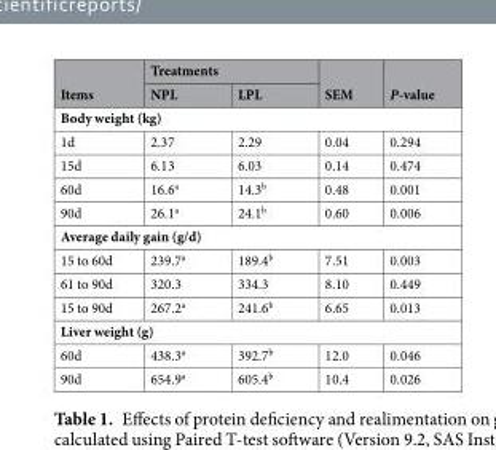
<table><thead><tr><td rowspan="2">Items</td><td colspan="2">Treatments</td><td rowspan="2">SEM</td><td rowspan="2">P-value</td></tr><tr><td>NPL</td><td>LPL</td></tr></thead><tbody><tr><td colspan="5">Body weight (kg)</td></tr><tr><td>1d</td><td>2.37</td><td>2.29</td><td>0.04</td><td>0.294</td></tr><tr><td>15d</td><td>6.13</td><td>6.03</td><td>0.14</td><td>0.474</td></tr><tr><td>60d</td><td>16.6<sup>a</sup></td><td>14.3<sup>b</sup></td><td>0.48</td><td>0.001</td></tr><tr><td>90d</td><td>26.1<sup>a</sup></td><td>24.1<sup>b</sup></td><td>0.60</td><td>0.006</td></tr><tr><td colspan="5">Average daily gain (g/d)</td></tr><tr><td>15 to 60d</td><td>239.7<sup>a</sup></td><td>189.4<sup>b</sup></td><td>7.51</td><td>0.003</td></tr><tr><td>61 to 90d</td><td>320.3</td><td>334.3</td><td>8.10</td><td>0.449</td></tr><tr><td>15 to 90d</td><td>267.2<sup>a</sup></td><td>241.6<sup>b</sup></td><td>6.65</td><td>0.013</td></tr><tr><td colspan="5">Liver weight (g)</td></tr><tr><td>60d</td><td>438.3<sup>a</sup></td><td>392.7<sup>b</sup></td><td>12.0</td><td>0.046</td></tr><tr><td>90d</td><td>654.9<sup>a</sup></td><td>605.4<sup>b</sup></td><td>10.4</td><td>0.026</td></tr></tbody></table>